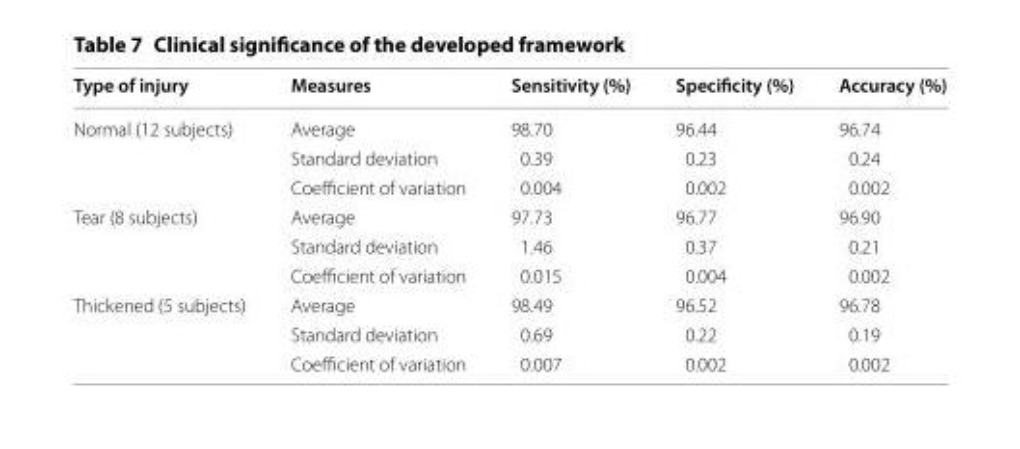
<table><thead><tr><td>Type of injury</td><td>Measures</td><td>Sensitivity (%)</td><td>Specificity (%)</td><td>Accuracy (%)</td></tr></thead><tbody><tr><td rowspan="3">Normal (12 subjects)</td><td>Average</td><td>98.70</td><td>96.44</td><td>96.74</td></tr><tr><td>Standard deviation</td><td>0.39</td><td>0.23</td><td>0.24</td></tr><tr><td>Coefficient of variation</td><td>0.004</td><td>0.002</td><td>0.002</td></tr><tr><td rowspan="3">Tear (8 subjects)</td><td>Average</td><td>97.73</td><td>96.77</td><td>96.90</td></tr><tr><td>Standard deviation</td><td>1.46</td><td>0.37</td><td>0.21</td></tr><tr><td>Coefficient of variation</td><td>0.015</td><td>0.004</td><td>0.002</td></tr><tr><td rowspan="3">Thickened (5 subjects)</td><td>Average</td><td>98.49</td><td>96.52</td><td>96.78</td></tr><tr><td>Standard deviation</td><td>0.69</td><td>0.22</td><td>0.19</td></tr><tr><td>Coefficient of variation</td><td>0.007</td><td>0.002</td><td>0.002</td></tr></tbody></table>